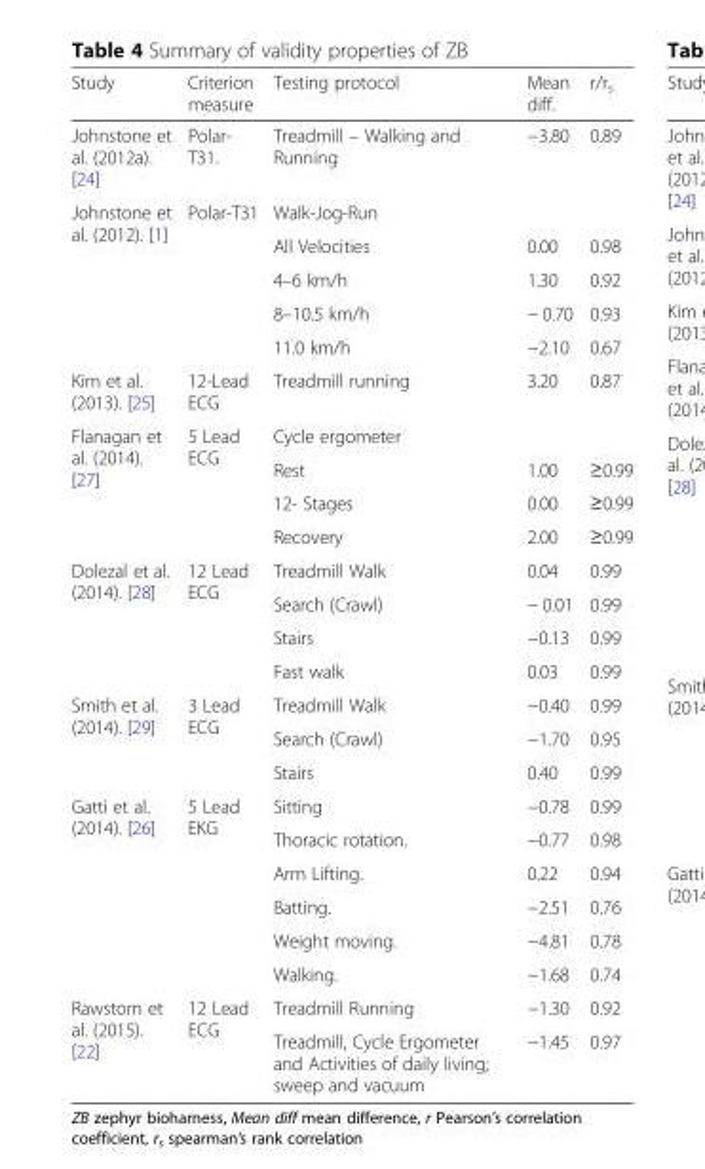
<table><thead><tr><td>Study</td><td>Criterion measure</td><td>Testing protocol</td><td>Mean diff.</td><td>r/r<sub>s</sub></td></tr></thead><tbody><tr><td>Johnstone et al. (2012a). [24]</td><td>Polar- T31.</td><td>Treadmill – Walking and Running</td><td>−3.80</td><td>0.89</td></tr><tr><td rowspan="5">Johnstone et al. (2012). [1]</td><td rowspan="5">Polar-T31</td><td>Walk-Jog-Run</td><td></td><td></td></tr><tr><td>All Velocities</td><td>0.00</td><td>0.98</td></tr><tr><td>4–6 km/h</td><td>1.30</td><td>0.92</td></tr><tr><td>8–10.5 km/h</td><td>− 0.70</td><td>0.93</td></tr><tr><td>11.0 km/h</td><td>−2.10</td><td>0.67</td></tr><tr><td>Kim et al. (2013). [25]</td><td>12-Lead ECG</td><td>Treadmill running</td><td>3.20</td><td>0.87</td></tr><tr><td rowspan="4">Flanagan et al. (2014). [27]</td><td rowspan="4">5 Lead ECG</td><td>Cycle ergometer</td><td></td><td></td></tr><tr><td>Rest</td><td>1.00</td><td>≥0.99</td></tr><tr><td>12- Stages</td><td>0.00</td><td>≥0.99</td></tr><tr><td>Recovery</td><td>2.00</td><td>≥0.99</td></tr><tr><td rowspan="4">Dolezal et al. (2014). [28]</td><td rowspan="4">12 Lead ECG</td><td>Treadmill Walk</td><td>0.04</td><td>0.99</td></tr><tr><td>Search (Crawl)</td><td>− 0.01</td><td>0.99</td></tr><tr><td>Stairs</td><td>−0.13</td><td>0.99</td></tr><tr><td>Fast walk</td><td>0.03</td><td>0.99</td></tr><tr><td rowspan="3">Smith et al. (2014). [29]</td><td rowspan="3">3 Lead ECG</td><td>Treadmill Walk</td><td>−0.40</td><td>0.99</td></tr><tr><td>Search (Crawl)</td><td>−1.70</td><td>0.95</td></tr><tr><td>Stairs</td><td>0.40</td><td>0.99</td></tr><tr><td rowspan="6">Gatti et al. (2014). [26]</td><td rowspan="6">5 Lead EKG</td><td>Sitting</td><td>−0.78</td><td>0.99</td></tr><tr><td>Thoracic rotation.</td><td>−0.77</td><td>0.98</td></tr><tr><td>Arm Lifting.</td><td>0.22</td><td>0.94</td></tr><tr><td>Batting.</td><td>−2.51</td><td>0.76</td></tr><tr><td>Weight moving.</td><td>−4.81</td><td>0.78</td></tr><tr><td>Walking.</td><td>−1.68</td><td>0.74</td></tr><tr><td rowspan="2">Rawstorn et al. (2015). [22]</td><td rowspan="2">12 Lead ECG</td><td>Treadmill Running</td><td>−1.30</td><td>0.92</td></tr><tr><td>Treadmill, Cycle Ergometer and Activities of daily living; sweep and vacuum</td><td>−1.45</td><td>0.97</td></tr></tbody></table>